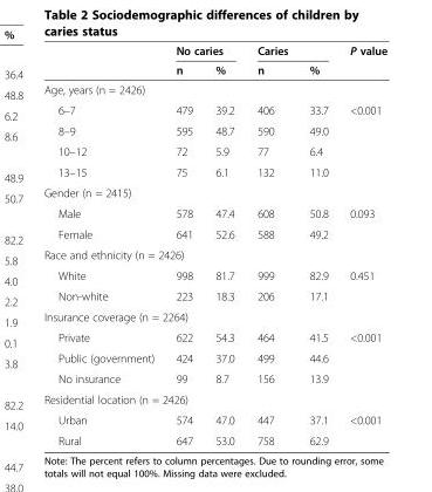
<table><thead><tr><td rowspan="2"></td><td colspan="2">No caries</td><td rowspan="2">Caries n</td><td rowspan="2">%</td><td rowspan="2">P value</td></tr><tr><td>n</td><td>%</td></tr></thead><tbody><tr><td colspan="6">Age, years (n = 2426)</td></tr><tr><td>6–7</td><td>479</td><td>39.2</td><td>406</td><td>33.7</td><td rowspan="4">&lt;0.001</td></tr><tr><td>8–9</td><td>595</td><td>48.7</td><td>590</td><td>49.0</td></tr><tr><td>10–12</td><td>72</td><td>5.9</td><td>77</td><td>6.4</td></tr><tr><td>13–15</td><td>75</td><td>6.1</td><td>132</td><td>11.0</td></tr><tr><td colspan="6">Gender (n = 2415)</td></tr><tr><td>Male</td><td>578</td><td>47.4</td><td>608</td><td>50.8</td><td rowspan="2">0.093</td></tr><tr><td>Female</td><td>641</td><td>52.6</td><td>588</td><td>49.2</td></tr><tr><td colspan="6">Race and ethnicity (n = 2426)</td></tr><tr><td>White</td><td>998</td><td>81.7</td><td>999</td><td>82.9</td><td rowspan="2">0.451</td></tr><tr><td>Non-white</td><td>223</td><td>18.3</td><td>206</td><td>17.1</td></tr><tr><td colspan="6">Insurance coverage (n = 2264)</td></tr><tr><td>Private</td><td>622</td><td>54.3</td><td>464</td><td>41.5</td><td rowspan="3">&lt;0.001</td></tr><tr><td>Public (government)</td><td>424</td><td>37.0</td><td>499</td><td>44.6</td></tr><tr><td>No insurance</td><td>99</td><td>8.7</td><td>156</td><td>13.9</td></tr><tr><td colspan="6">Residential location (n = 2426)</td></tr><tr><td>Urban</td><td>574</td><td>47.0</td><td>447</td><td>37.1</td><td rowspan="2">&lt;0.001</td></tr><tr><td>Rural</td><td>647</td><td>53.0</td><td>758</td><td>62.9</td></tr></tbody></table>